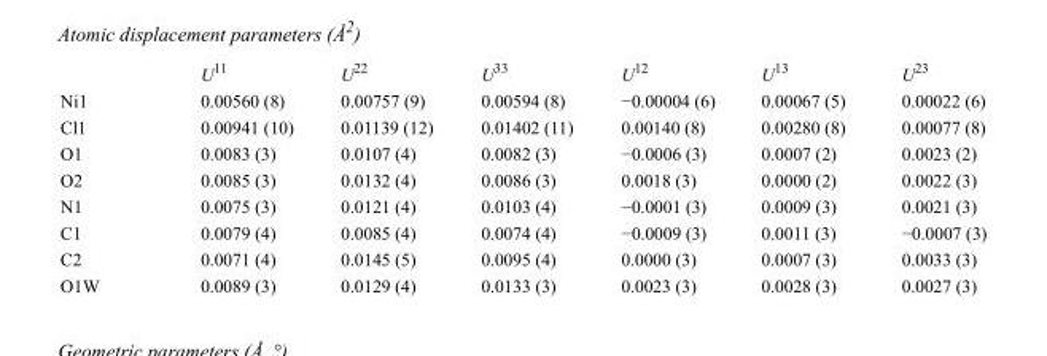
<table><thead><tr><td></td><td>U<sup>11</sup></td><td>U<sup>22</sup></td><td>U<sup>33</sup></td><td>U<sup>12</sup></td><td>U<sup>13</sup></td><td>U<sup>23</sup></td></tr></thead><tbody><tr><td>Ni1</td><td>0.00560 (8)</td><td>0.00757 (9)</td><td>0.00594 (8)</td><td>−0.00004 (6)</td><td>0.00067 (5)</td><td>0.00022 (6)</td></tr><tr><td>Cl1</td><td>0.00941 (10)</td><td>0.01139 (12)</td><td>0.01402 (11)</td><td>0.00140 (8)</td><td>0.00280 (8)</td><td>0.00077 (8)</td></tr><tr><td>O1</td><td>0.0083 (3)</td><td>0.0107 (4)</td><td>0.0082 (3)</td><td>−0.0006 (3)</td><td>0.0007 (2)</td><td>0.0023 (2)</td></tr><tr><td>O2</td><td>0.0085 (3)</td><td>0.0132 (4)</td><td>0.0086 (3)</td><td>0.0018 (3)</td><td>0.0000 (2)</td><td>0.0022 (3)</td></tr><tr><td>N1</td><td>0.0075 (3)</td><td>0.0121 (4)</td><td>0.0103 (4)</td><td>−0.0001 (3)</td><td>0.0009 (3)</td><td>0.0021 (3)</td></tr><tr><td>C1</td><td>0.0079 (4)</td><td>0.0085 (4)</td><td>0.0074 (4)</td><td>−0.0009 (3)</td><td>0.0011 (3)</td><td>−0.0007 (3)</td></tr><tr><td>C2</td><td>0.0071 (4)</td><td>0.0145 (5)</td><td>0.0095 (4)</td><td>0.0000 (3)</td><td>0.0007 (3)</td><td>0.0033 (3)</td></tr><tr><td>O1W</td><td>0.0089 (3)</td><td>0.0129 (4)</td><td>0.0133 (3)</td><td>0.0023 (3)</td><td>0.0028 (3)</td><td>0.0027 (3)</td></tr></tbody></table>